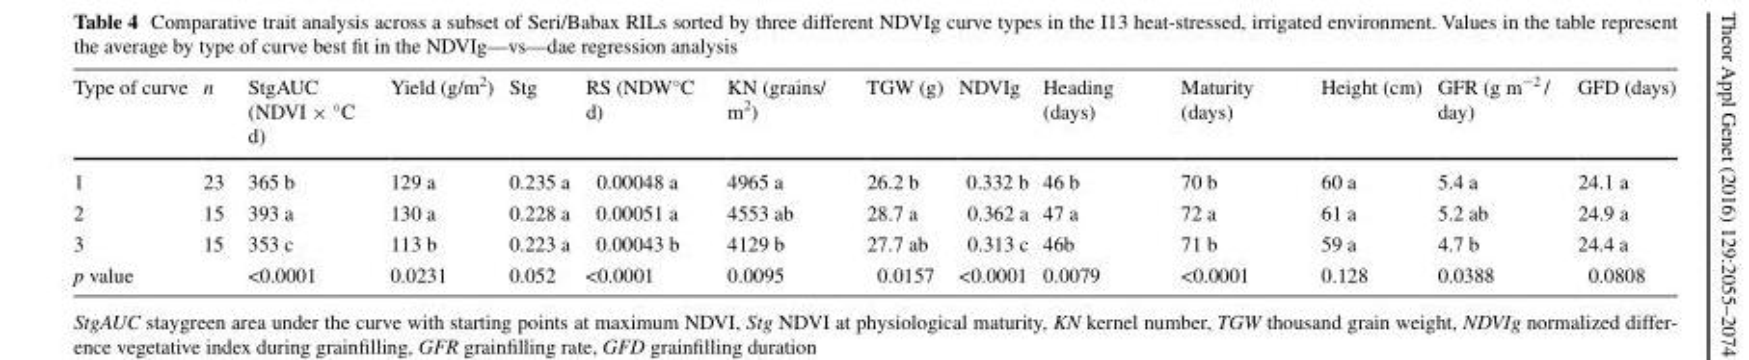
<table><thead><tr><td>Type of curve</td><td>n</td><td>StgAUC (NDVI × °C d)</td><td>Yield (g/m<sup>2</sup>)</td><td>Stg</td><td>RS (NDW°C d)</td><td>KN (grains/ m<sup>2</sup>)</td><td>TGW (g)</td><td>NDVIg</td><td>Heading (days)</td><td>Maturity (days)</td><td>Height (cm)</td><td>GFR (g m<sup>−2</sup> / day)</td><td>GFD (days)</td></tr></thead><tbody><tr><td>1</td><td>23</td><td>365 b</td><td>129 a</td><td>0.235 a</td><td>0.00048 a</td><td>4965 a</td><td>26.2 b</td><td>0.332 b</td><td>46 b</td><td>70 b</td><td>60 a</td><td>5.4 a</td><td>24.1 a</td></tr><tr><td>2</td><td>15</td><td>393 a</td><td>130 a</td><td>0.228 a</td><td>0.00051 a</td><td>4553 ab</td><td>28.7 a</td><td>0.362 a</td><td>47 a</td><td>72 a</td><td>61 a</td><td>5.2 ab</td><td>24.9 a</td></tr><tr><td>3</td><td>15</td><td>353 c</td><td>113 b</td><td>0.223 a</td><td>0.00043 b</td><td>4129 b</td><td>27.7 ab</td><td>0.313 c</td><td>46b</td><td>71 b</td><td>59 a</td><td>4.7 b</td><td>24.4 a</td></tr><tr><td>p value</td><td></td><td>&lt;0.0001</td><td>0.0231</td><td>0.052</td><td>&lt;0.0001</td><td>0.0095</td><td>0.0157</td><td>&lt;0.0001</td><td>0.0079</td><td>&lt;0.0001</td><td>0.128</td><td>0.0388</td><td>0.0808</td></tr></tbody></table>